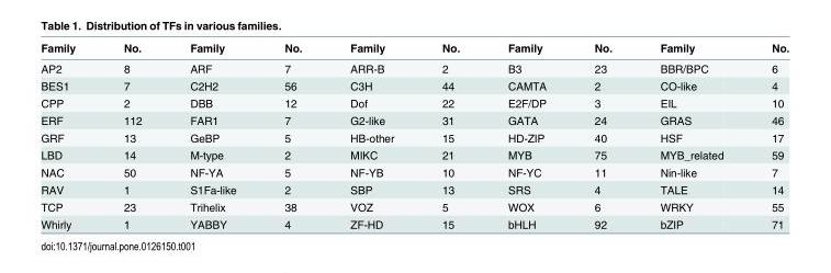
<table><thead><tr><td>Family</td><td>No.</td><td>Family</td><td>No.</td><td>Family</td><td>No.</td><td>Family</td><td>No.</td><td>Family</td><td>No.</td></tr></thead><tbody><tr><td>AP2</td><td>8</td><td>ARF</td><td>7</td><td>ARR-B</td><td>2</td><td>B3</td><td>23</td><td>BBR/BPC</td><td>6</td></tr><tr><td>BES1</td><td>7</td><td>C2H2</td><td>56</td><td>C3H</td><td>44</td><td>CAMTA</td><td>2</td><td>CO-like</td><td>4</td></tr><tr><td>CPP</td><td>2</td><td>DBB</td><td>12</td><td>Dof</td><td>22</td><td>E2F/DP</td><td>3</td><td>EIL</td><td>10</td></tr><tr><td>ERF</td><td>112</td><td>FAR1</td><td>7</td><td>G2-like</td><td>31</td><td>GATA</td><td>24</td><td>GRAS</td><td>46</td></tr><tr><td>GRF</td><td>13</td><td>GeBP</td><td>5</td><td>HB-other</td><td>15</td><td>HD-ZIP</td><td>40</td><td>HSF</td><td>17</td></tr><tr><td>LBD</td><td>14</td><td>M-type</td><td>2</td><td>MIKC</td><td>21</td><td>MYB</td><td>75</td><td>MYB_related</td><td>59</td></tr><tr><td>NAC</td><td>50</td><td>NF-YA</td><td>5</td><td>NF-YB</td><td>10</td><td>NF-YC</td><td>11</td><td>Nin-like</td><td>7</td></tr><tr><td>RAV</td><td>1</td><td>S1Fa-like</td><td>2</td><td>SBP</td><td>13</td><td>SRS</td><td>4</td><td>TALE</td><td>14</td></tr><tr><td>TCP</td><td>23</td><td>Trihelix</td><td>38</td><td>VOZ</td><td>5</td><td>WOX</td><td>6</td><td>WRKY</td><td>55</td></tr><tr><td>Whirly</td><td>1</td><td>YABBY</td><td>4</td><td>ZF-HD</td><td>15</td><td>bHLH</td><td>92</td><td>bZIP</td><td>71</td></tr></tbody></table>